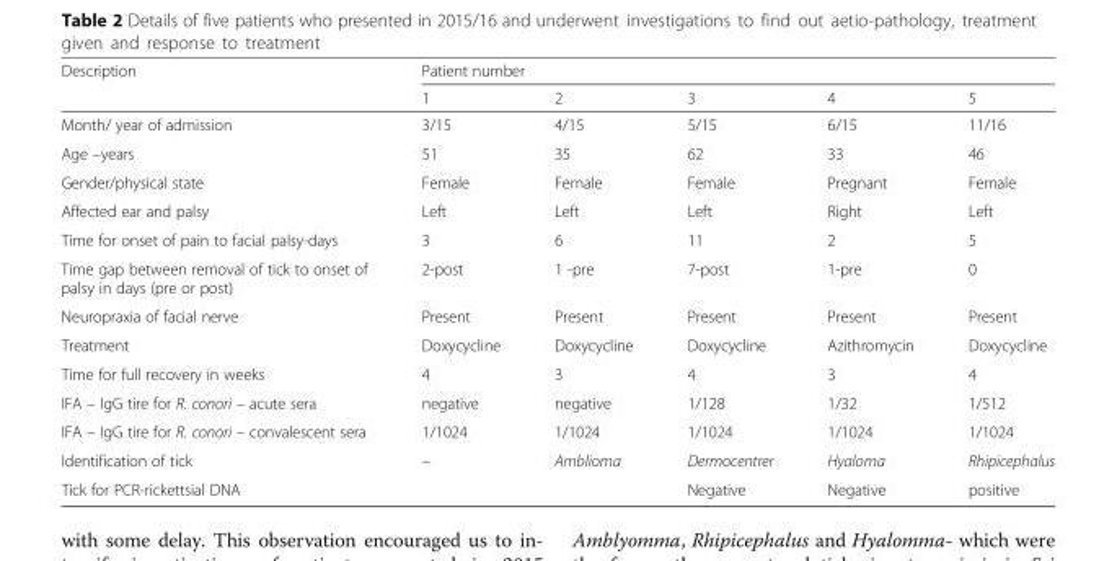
<table><thead><tr><td rowspan="2">Description</td><td colspan="5">Patient number</td></tr><tr><td>1</td><td>2</td><td>3</td><td>4</td><td>5</td></tr></thead><tbody><tr><td>Month/ year of admission</td><td>3/15</td><td>4/15</td><td>5/15</td><td>6/15</td><td>11/16</td></tr><tr><td>Age –years</td><td>51</td><td>35</td><td>62</td><td>33</td><td>46</td></tr><tr><td>Gender/physical state</td><td>Female</td><td>Female</td><td>Female</td><td>Pregnant</td><td>Female</td></tr><tr><td>Affected ear and palsy</td><td>Left</td><td>Left</td><td>Left</td><td>Right</td><td>Left</td></tr><tr><td>Time for onset of pain to facial palsy-days</td><td>3</td><td>6</td><td>11</td><td>2</td><td>5</td></tr><tr><td>Time gap between removal of tick to onset of palsy in days (pre or post)</td><td>2-post</td><td>1 -pre</td><td>7-post</td><td>1-pre</td><td>0</td></tr><tr><td>Neuropraxia of facial nerve</td><td>Present</td><td>Present</td><td>Present</td><td>Present</td><td>Present</td></tr><tr><td>Treatment</td><td>Doxycycline</td><td>Doxycycline</td><td>Doxycycline</td><td>Azithromycin</td><td>Doxycycline</td></tr><tr><td>Time for full recovery in weeks</td><td>4</td><td>3</td><td>4</td><td>3</td><td>4</td></tr><tr><td>IFA – IgG tire for R. conori – acute sera</td><td>negative</td><td>negative</td><td>1/128</td><td>1/32</td><td>1/512</td></tr><tr><td>IFA – IgG tire for R. conori – convalescent sera</td><td>1/1024</td><td>1/1024</td><td>1/1024</td><td>1/1024</td><td>1/1024</td></tr><tr><td>Identification of tick</td><td>–</td><td>Amblioma</td><td>Dermocentrer</td><td>Hyaloma</td><td>Rhipicephalus</td></tr><tr><td>Tick for PCR-rickettsial DNA</td><td></td><td></td><td>Negative</td><td>Negative</td><td>positive</td></tr></tbody></table>